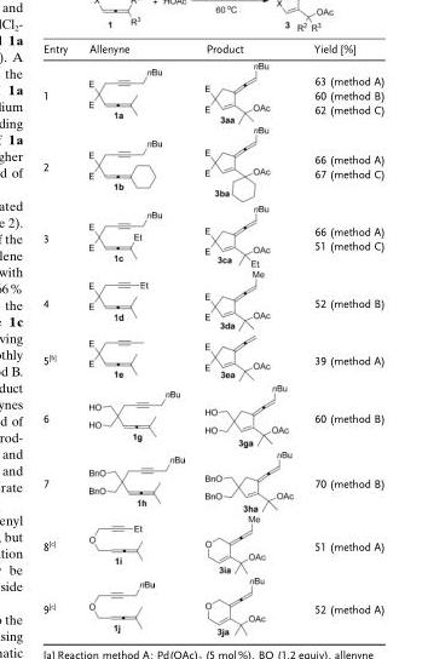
<table><thead><tr><td>Entry</td><td>Allenyne</td><td>Product</td><td>Yield [%]</td></tr></thead><tbody><tr><td>1</td><td></td><td></td><td>63 (method A) 60 (method B) 62 (method C)</td></tr><tr><td>2</td><td></td><td></td><td>66 (method A) 67 (method C)</td></tr><tr><td>3</td><td></td><td></td><td>66 (method A) 51 (method C)</td></tr><tr><td>4</td><td></td><td></td><td>52 (method B)</td></tr><tr><td>5[b]</td><td></td><td></td><td>39 (method A)</td></tr><tr><td>6</td><td></td><td></td><td>60 (method B)</td></tr><tr><td>7</td><td></td><td></td><td>70 (method B)</td></tr><tr><td>8[c]</td><td></td><td></td><td>51 (method A)</td></tr><tr><td>9[c]</td><td></td><td></td><td>52 (method A)</td></tr></tbody></table>